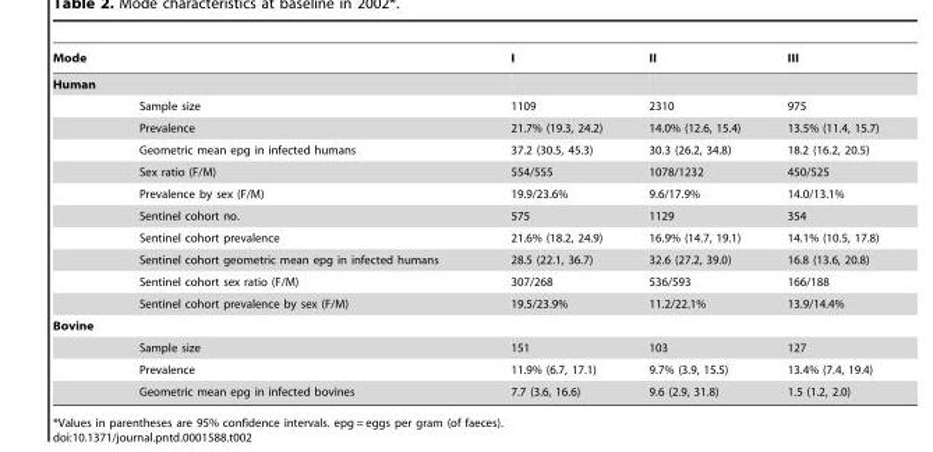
<table><thead><tr><td colspan="2">Mode</td><td rowspan="2">I</td><td rowspan="2">II</td><td rowspan="2">III</td></tr><tr><td>Human</td><td></td></tr></thead><tbody><tr><td></td><td>Sample size</td><td>1109</td><td>2310</td><td>975</td></tr><tr><td></td><td>Prevalence</td><td>21.7% (19.3, 24.2)</td><td>14.0% (12.6, 15.4)</td><td>13.5% (11.4, 15.7)</td></tr><tr><td></td><td>Geometric mean epg in infected humans</td><td>37.2 (30.5, 45.3)</td><td>30.3 (26.2, 34.8)</td><td>18.2 (16.2, 20.5)</td></tr><tr><td></td><td>Sex ratio (F/M)</td><td>554/555</td><td>1078/1232</td><td>450/525</td></tr><tr><td></td><td>Prevalence by sex (F/M)</td><td>19.9/23.6%</td><td>9.6/17.9%</td><td>14.0/13.1%</td></tr><tr><td></td><td>Sentinel cohort no.</td><td>575</td><td>1129</td><td>354</td></tr><tr><td></td><td>Sentinel cohort prevalence</td><td>21.6% (18.2, 24.9)</td><td>16.9% (14.7, 19.1)</td><td>14.1% (10.5, 17.8)</td></tr><tr><td></td><td>Sentinel cohort geometric mean epg in infected humans</td><td>28.5 (22.1, 36.7)</td><td>32.6 (27.2, 39.0)</td><td>16.8 (13.6, 20.8)</td></tr><tr><td></td><td>Sentinel cohort sex ratio (F/M)</td><td>307/268</td><td>536/593</td><td>166/188</td></tr><tr><td></td><td>Sentinel cohort prevalence by sex (F/M)</td><td>19.5/23.9%</td><td>11.2/22.1%</td><td>13.9/14.4%</td></tr><tr><td colspan="5">Bovine</td></tr><tr><td></td><td>Sample size</td><td>151</td><td>103</td><td>127</td></tr><tr><td></td><td>Prevalence</td><td>11.9% (6.7, 17.1)</td><td>9.7% (3.9, 15.5)</td><td>13.4% (7.4, 19.4)</td></tr><tr><td></td><td>Geometric mean epg in infected bovines</td><td>7.7 (3.6, 16.6)</td><td>9.6 (2.9, 31.8)</td><td>1.5 (1.2, 2.0)</td></tr></tbody></table>